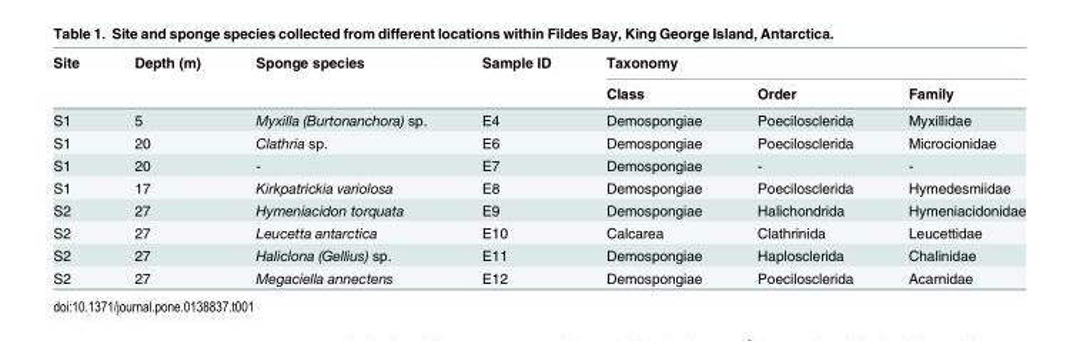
<table><thead><tr><td rowspan="2">Site</td><td rowspan="2">Depth (m)</td><td rowspan="2">Sponge species</td><td rowspan="2">Sample ID</td><td colspan="3">Taxonomy</td></tr><tr><td>Class</td><td>Order</td><td>Family</td></tr></thead><tbody><tr><td>S1</td><td>5</td><td>Myxilla (Burtonanchora) sp.</td><td>E4</td><td>Demospongiae</td><td>Poecilosclerida</td><td>Myxillidae</td></tr><tr><td>S1</td><td>20</td><td>Clathria sp.</td><td>E6</td><td>Demospongiae</td><td>Poecilosclerida</td><td>Microcionidae</td></tr><tr><td>S1</td><td>20</td><td>-</td><td>E7</td><td>Demospongiae</td><td>-</td><td>-</td></tr><tr><td>S1</td><td>17</td><td>Kirkpatrickia variolosa</td><td>E8</td><td>Demospongiae</td><td>Poecilosclerida</td><td>Hymedesmiidae</td></tr><tr><td>S2</td><td>27</td><td>Hymeniacidon torquata</td><td>E9</td><td>Demospongiae</td><td>Halichondrida</td><td>Hymeniacidonidae</td></tr><tr><td>S2</td><td>27</td><td>Leucetta antarctica</td><td>E10</td><td>Calcarea</td><td>Clathrinida</td><td>Leucettidae</td></tr><tr><td>S2</td><td>27</td><td>Haliclona (Gellius) sp.</td><td>E11</td><td>Demospongiae</td><td>Haplosclerida</td><td>Chalinidae</td></tr><tr><td>S2</td><td>27</td><td>Megaciella annectens</td><td>E12</td><td>Demospongiae</td><td>Poecilosclerida</td><td>Acarnidae</td></tr></tbody></table>